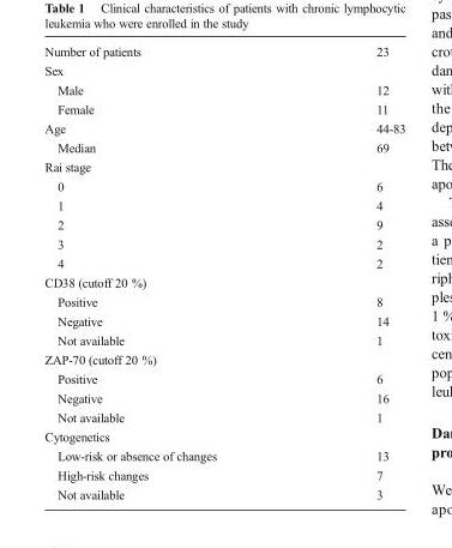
<table><tbody><tr><td>Number of patients</td><td>23</td></tr><tr><td colspan="2">Sex</td></tr><tr><td>Male</td><td>12</td></tr><tr><td>Female</td><td>11</td></tr><tr><td>Age</td><td>44-83</td></tr><tr><td>Median</td><td>69</td></tr><tr><td colspan="2">Rai stage</td></tr><tr><td>0</td><td>6</td></tr><tr><td>1</td><td>4</td></tr><tr><td>2</td><td>9</td></tr><tr><td>3</td><td>2</td></tr><tr><td>4</td><td>2</td></tr><tr><td colspan="2">CD38 (cutoff 20 %)</td></tr><tr><td>Positive</td><td>8</td></tr><tr><td>Negative</td><td>14</td></tr><tr><td>Not available</td><td>1</td></tr><tr><td colspan="2">ZAP-70 (cutoff 20 %)</td></tr><tr><td>Positive</td><td>6</td></tr><tr><td>Negative</td><td>16</td></tr><tr><td>Not available</td><td>1</td></tr><tr><td colspan="2">Cytogenetics</td></tr><tr><td>Low-risk or absence of changes</td><td>13</td></tr><tr><td>High-risk changes</td><td>7</td></tr><tr><td>Not available</td><td>3</td></tr></tbody></table>